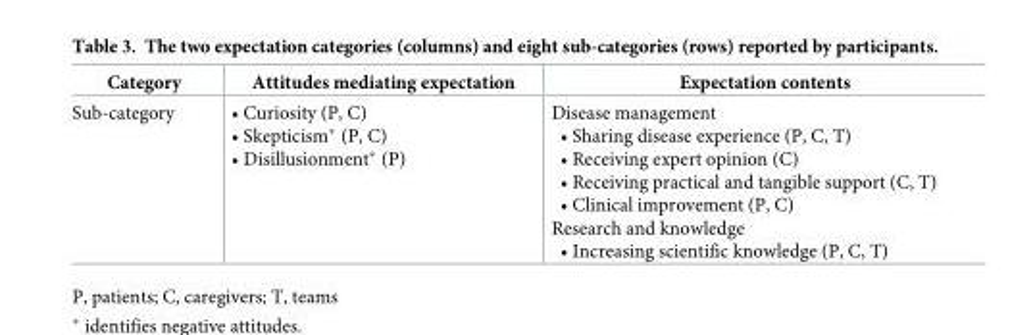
<table><thead><tr><td>Category</td><td>Attitudes mediating expectation</td><td>Expectation contents</td></tr></thead><tbody><tr><td>Sub-category</td><td>• Curiosity (P, C) • Skepticism* (P, C) • Disillusionment* (P)</td><td>Disease management • Sharing disease experience (P, C, T) • Receiving expert opinion (C) • Receiving practical and tangible support (C, T) • Clinical improvement (P, C) Research and knowledge • Increasing scientific knowledge (P, C, T)</td></tr></tbody></table>